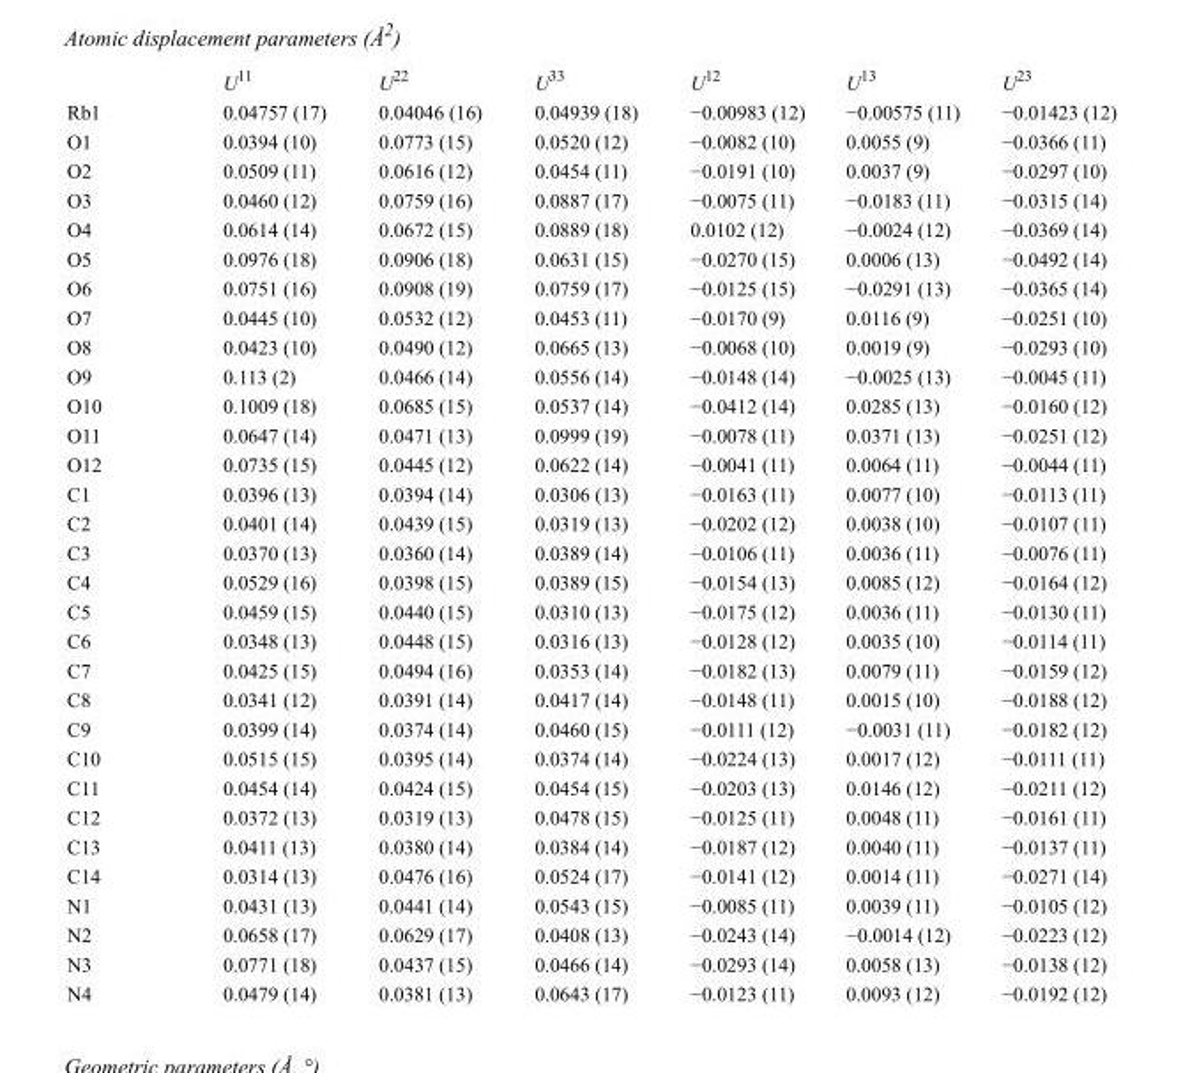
<table><thead><tr><td></td><td>U<sup>11</sup></td><td>U<sup>22</sup></td><td>U<sup>33</sup></td><td>U<sup>12</sup></td><td>U<sup>13</sup></td><td>U<sup>23</sup></td></tr></thead><tbody><tr><td>Rb1</td><td>0.04757 (17)</td><td>0.04046 (16)</td><td>0.04939 (18)</td><td>−0.00983 (12)</td><td>−0.00575 (11)</td><td>−0.01423 (12)</td></tr><tr><td>O1</td><td>0.0394 (10)</td><td>0.0773 (15)</td><td>0.0520 (12)</td><td>−0.0082 (10)</td><td>0.0055 (9)</td><td>−0.0366 (11)</td></tr><tr><td>O2</td><td>0.0509 (11)</td><td>0.0616 (12)</td><td>0.0454 (11)</td><td>−0.0191 (10)</td><td>0.0037 (9)</td><td>−0.0297 (10)</td></tr><tr><td>O3</td><td>0.0460 (12)</td><td>0.0759 (16)</td><td>0.0887 (17)</td><td>−0.0075 (11)</td><td>−0.0183 (11)</td><td>−0.0315 (14)</td></tr><tr><td>O4</td><td>0.0614 (14)</td><td>0.0672 (15)</td><td>0.0889 (18)</td><td>0.0102 (12)</td><td>−0.0024 (12)</td><td>−0.0369 (14)</td></tr><tr><td>O5</td><td>0.0976 (18)</td><td>0.0906 (18)</td><td>0.0631 (15)</td><td>−0.0270 (15)</td><td>0.0006 (13)</td><td>−0.0492 (14)</td></tr><tr><td>O6</td><td>0.0751 (16)</td><td>0.0908 (19)</td><td>0.0759 (17)</td><td>−0.0125 (15)</td><td>−0.0291 (13)</td><td>−0.0365 (14)</td></tr><tr><td>O7</td><td>0.0445 (10)</td><td>0.0532 (12)</td><td>0.0453 (11)</td><td>−0.0170 (9)</td><td>0.0116 (9)</td><td>−0.0251 (10)</td></tr><tr><td>O8</td><td>0.0423 (10)</td><td>0.0490 (12)</td><td>0.0665 (13)</td><td>−0.0068 (10)</td><td>0.0019 (9)</td><td>−0.0293 (10)</td></tr><tr><td>O9</td><td>0.113 (2)</td><td>0.0466 (14)</td><td>0.0556 (14)</td><td>−0.0148 (14)</td><td>−0.0025 (13)</td><td>−0.0045 (11)</td></tr><tr><td>O10</td><td>0.1009 (18)</td><td>0.0685 (15)</td><td>0.0537 (14)</td><td>−0.0412 (14)</td><td>0.0285 (13)</td><td>−0.0160 (12)</td></tr><tr><td>O11</td><td>0.0647 (14)</td><td>0.0471 (13)</td><td>0.0999 (19)</td><td>−0.0078 (11)</td><td>0.0371 (13)</td><td>−0.0251 (12)</td></tr><tr><td>O12</td><td>0.0735 (15)</td><td>0.0445 (12)</td><td>0.0622 (14)</td><td>−0.0041 (11)</td><td>0.0064 (11)</td><td>−0.0044 (11)</td></tr><tr><td>C1</td><td>0.0396 (13)</td><td>0.0394 (14)</td><td>0.0306 (13)</td><td>−0.0163 (11)</td><td>0.0077 (10)</td><td>−0.0113 (11)</td></tr><tr><td>C2</td><td>0.0401 (14)</td><td>0.0439 (15)</td><td>0.0319 (13)</td><td>−0.0202 (12)</td><td>0.0038 (10)</td><td>−0.0107 (11)</td></tr><tr><td>C3</td><td>0.0370 (13)</td><td>0.0360 (14)</td><td>0.0389 (14)</td><td>−0.0106 (11)</td><td>0.0036 (11)</td><td>−0.0076 (11)</td></tr><tr><td>C4</td><td>0.0529 (16)</td><td>0.0398 (15)</td><td>0.0389 (15)</td><td>−0.0154 (13)</td><td>0.0085 (12)</td><td>−0.0164 (12)</td></tr><tr><td>C5</td><td>0.0459 (15)</td><td>0.0440 (15)</td><td>0.0310 (13)</td><td>−0.0175 (12)</td><td>0.0036 (11)</td><td>−0.0130 (11)</td></tr><tr><td>C6</td><td>0.0348 (13)</td><td>0.0448 (15)</td><td>0.0316 (13)</td><td>−0.0128 (12)</td><td>0.0035 (10)</td><td>−0.0114 (11)</td></tr><tr><td>C7</td><td>0.0425 (15)</td><td>0.0494 (16)</td><td>0.0353 (14)</td><td>−0.0182 (13)</td><td>0.0079 (11)</td><td>−0.0159 (12)</td></tr><tr><td>C8</td><td>0.0341 (12)</td><td>0.0391 (14)</td><td>0.0417 (14)</td><td>−0.0148 (11)</td><td>0.0015 (10)</td><td>−0.0188 (12)</td></tr><tr><td>C9</td><td>0.0399 (14)</td><td>0.0374 (14)</td><td>0.0460 (15)</td><td>−0.0111 (12)</td><td>−0.0031 (11)</td><td>−0.0182 (12)</td></tr><tr><td>C10</td><td>0.0515 (15)</td><td>0.0395 (14)</td><td>0.0374 (14)</td><td>−0.0224 (13)</td><td>0.0017 (12)</td><td>−0.0111 (11)</td></tr><tr><td>C11</td><td>0.0454 (14)</td><td>0.0424 (15)</td><td>0.0454 (15)</td><td>−0.0203 (13)</td><td>0.0146 (12)</td><td>−0.0211 (12)</td></tr><tr><td>C12</td><td>0.0372 (13)</td><td>0.0319 (13)</td><td>0.0478 (15)</td><td>−0.0125 (11)</td><td>0.0048 (11)</td><td>−0.0161 (11)</td></tr><tr><td>C13</td><td>0.0411 (13)</td><td>0.0380 (14)</td><td>0.0384 (14)</td><td>−0.0187 (12)</td><td>0.0040 (11)</td><td>−0.0137 (11)</td></tr><tr><td>C14</td><td>0.0314 (13)</td><td>0.0476 (16)</td><td>0.0524 (17)</td><td>−0.0141 (12)</td><td>0.0014 (11)</td><td>−0.0271 (14)</td></tr><tr><td>N1</td><td>0.0431 (13)</td><td>0.0441 (14)</td><td>0.0543 (15)</td><td>−0.0085 (11)</td><td>0.0039 (11)</td><td>−0.0105 (12)</td></tr><tr><td>N2</td><td>0.0658 (17)</td><td>0.0629 (17)</td><td>0.0408 (13)</td><td>−0.0243 (14)</td><td>−0.0014 (12)</td><td>−0.0223 (12)</td></tr><tr><td>N3</td><td>0.0771 (18)</td><td>0.0437 (15)</td><td>0.0466 (14)</td><td>−0.0293 (14)</td><td>0.0058 (13)</td><td>−0.0138 (12)</td></tr><tr><td>N4</td><td>0.0479 (14)</td><td>0.0381 (13)</td><td>0.0643 (17)</td><td>−0.0123 (11)</td><td>0.0093 (12)</td><td>−0.0192 (12)</td></tr></tbody></table>